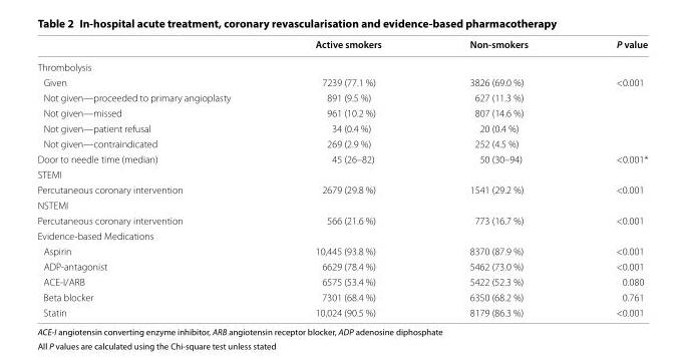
<table><thead><tr><td></td><td>Active smokers</td><td>Non‑smokers</td><td>P value</td></tr></thead><tbody><tr><td colspan="4">Thrombolysis</td></tr><tr><td>Given</td><td>7239 (77.1 %)</td><td>3826 (69.0 %)</td><td>&lt;0.001</td></tr><tr><td>Not given—proceeded to primary angioplasty</td><td>891 (9.5 %)</td><td>627 (11.3 %)</td><td></td></tr><tr><td>Not given—missed</td><td>961 (10.2 %)</td><td>807 (14.6 %)</td><td></td></tr><tr><td>Not given—patient refusal</td><td>34 (0.4 %)</td><td>20 (0.4 %)</td><td></td></tr><tr><td>Not given—contraindicated</td><td>269 (2.9 %)</td><td>252 (4.5 %)</td><td></td></tr><tr><td>Door to needle time (median)</td><td>45 (26–82)</td><td>50 (30–94)</td><td>&lt;0.001*</td></tr><tr><td colspan="4">STEMI</td></tr><tr><td>Percutaneous coronary intervention</td><td>2679 (29.8 %)</td><td>1541 (29.2 %)</td><td>&lt;0.001</td></tr><tr><td colspan="4">NSTEMI</td></tr><tr><td>Percutaneous coronary intervention</td><td>566 (21.6 %)</td><td>773 (16.7 %)</td><td>&lt;0.001</td></tr><tr><td colspan="4">Evidence-based Medications</td></tr><tr><td>Aspirin</td><td>10,445 (93.8 %)</td><td>8370 (87.9 %)</td><td>&lt;0.001</td></tr><tr><td>ADP-antagonist</td><td>6629 (78.4 %)</td><td>5462 (73.0 %)</td><td>&lt;0.001</td></tr><tr><td>ACE-I/ARB</td><td>6575 (53.4 %)</td><td>5422 (52.3 %)</td><td>0.080</td></tr><tr><td>Beta blocker</td><td>7301 (68.4 %)</td><td>6350 (68.2 %)</td><td>0.761</td></tr><tr><td>Statin</td><td>10,024 (90.5 %)</td><td>8179 (86.3 %)</td><td>&lt;0.001</td></tr></tbody></table>